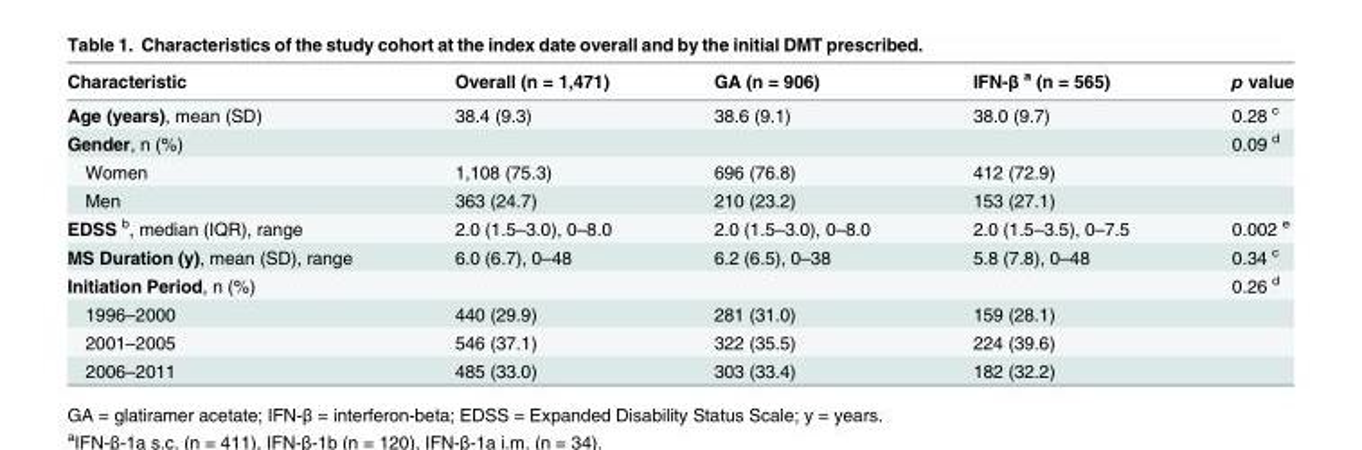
<table><thead><tr><td>Characteristic</td><td>Overall (n = 1,471)</td><td>GA (n = 906)</td><td>IFN-β <sup>a</sup> (n = 565)</td><td>p value</td></tr></thead><tbody><tr><td>Age (years), mean (SD)</td><td>38.4 (9.3)</td><td>38.6 (9.1)</td><td>38.0 (9.7)</td><td>0.28 <sup>c</sup></td></tr><tr><td>Gender, n (%)</td><td></td><td></td><td></td><td>0.09 <sup>d</sup></td></tr><tr><td>Women</td><td>1,108 (75.3)</td><td>696 (76.8)</td><td>412 (72.9)</td><td></td></tr><tr><td>Men</td><td>363 (24.7)</td><td>210 (23.2)</td><td>153 (27.1)</td><td></td></tr><tr><td>EDSS <sup>b</sup>, median (IQR), range</td><td>2.0 (1.5–3.0), 0–8.0</td><td>2.0 (1.5–3.0), 0–8.0</td><td>2.0 (1.5–3.5), 0–7.5</td><td>0.002 <sup>e</sup></td></tr><tr><td>MS Duration (y), mean (SD), range</td><td>6.0 (6.7), 0–48</td><td>6.2 (6.5), 0–38</td><td>5.8 (7.8), 0–48</td><td>0.34 <sup>c</sup></td></tr><tr><td>Initiation Period, n (%)</td><td></td><td></td><td></td><td>0.26 <sup>d</sup></td></tr><tr><td>1996–2000</td><td>440 (29.9)</td><td>281 (31.0)</td><td>159 (28.1)</td><td></td></tr><tr><td>2001–2005</td><td>546 (37.1)</td><td>322 (35.5)</td><td>224 (39.6)</td><td></td></tr><tr><td>2006–2011</td><td>485 (33.0)</td><td>303 (33.4)</td><td>182 (32.2)</td><td></td></tr></tbody></table>